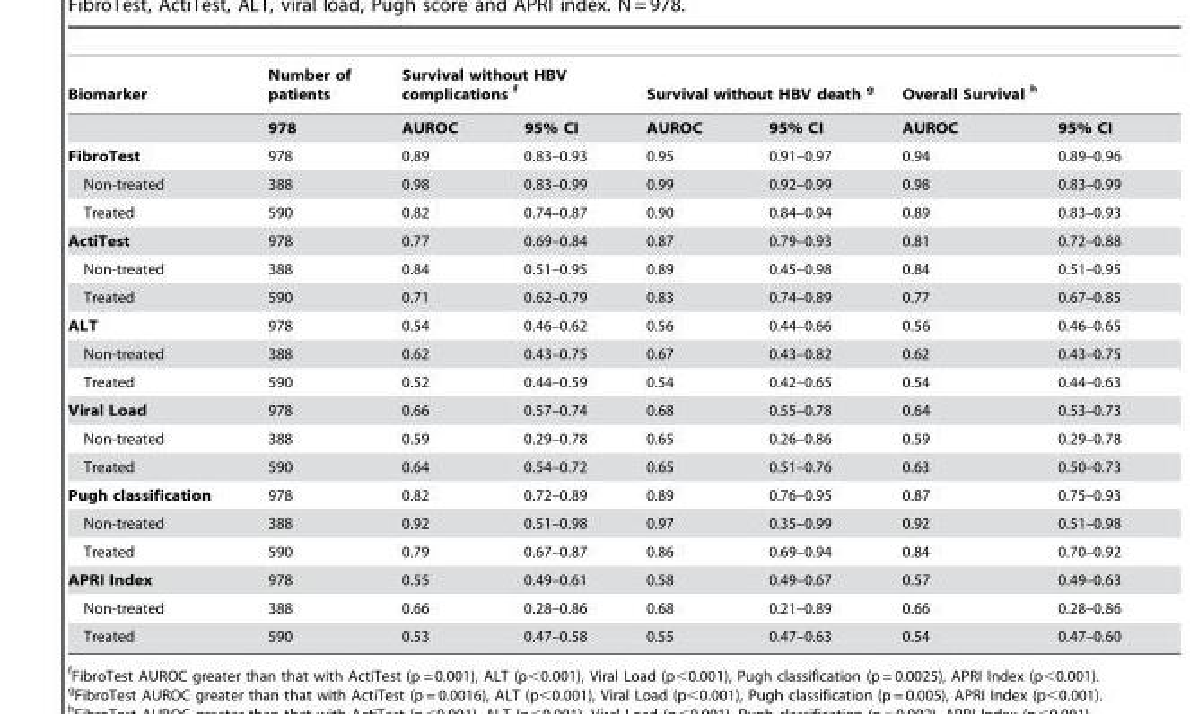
<table><thead><tr><td rowspan="2">Biomarker</td><td rowspan="2">Number of patients 978</td><td colspan="2">Survival without HBV complications f</td><td colspan="2">Survival without HBV death g</td><td colspan="2">Overall Survival h</td></tr><tr><td>AUROC</td><td>95% CI</td><td>AUROC</td><td>95% CI</td><td>AUROC</td><td>95% CI</td></tr></thead><tbody><tr><td>FibroTest</td><td>978</td><td>0.89</td><td>0.83–0.93</td><td>0.95</td><td>0.91–0.97</td><td>0.94</td><td>0.89–0.96</td></tr><tr><td>Non-treated</td><td>388</td><td>0.98</td><td>0.83–0.99</td><td>0.99</td><td>0.92–0.99</td><td>0.98</td><td>0.83–0.99</td></tr><tr><td>Treated</td><td>590</td><td>0.82</td><td>0.74–0.87</td><td>0.90</td><td>0.84–0.94</td><td>0.89</td><td>0.83–0.93</td></tr><tr><td>ActiTest</td><td>978</td><td>0.77</td><td>0.69–0.84</td><td>0.87</td><td>0.79–0.93</td><td>0.81</td><td>0.72–0.88</td></tr><tr><td>Non-treated</td><td>388</td><td>0.84</td><td>0.51–0.95</td><td>0.89</td><td>0.45–0.98</td><td>0.84</td><td>0.51–0.95</td></tr><tr><td>Treated</td><td>590</td><td>0.71</td><td>0.62–0.79</td><td>0.83</td><td>0.74–0.89</td><td>0.77</td><td>0.67–0.85</td></tr><tr><td>ALT</td><td>978</td><td>0.54</td><td>0.46–0.62</td><td>0.56</td><td>0.44–0.66</td><td>0.56</td><td>0.46–0.65</td></tr><tr><td>Non-treated</td><td>388</td><td>0.62</td><td>0.43–0.75</td><td>0.67</td><td>0.43–0.82</td><td>0.62</td><td>0.43–0.75</td></tr><tr><td>Treated</td><td>590</td><td>0.52</td><td>0.44–0.59</td><td>0.54</td><td>0.42–0.65</td><td>0.54</td><td>0.44–0.63</td></tr><tr><td>Viral Load</td><td>978</td><td>0.66</td><td>0.57–0.74</td><td>0.68</td><td>0.55–0.78</td><td>0.64</td><td>0.53–0.73</td></tr><tr><td>Non-treated</td><td>388</td><td>0.59</td><td>0.29–0.78</td><td>0.65</td><td>0.26–0.86</td><td>0.59</td><td>0.29–0.78</td></tr><tr><td>Treated</td><td>590</td><td>0.64</td><td>0.54–0.72</td><td>0.65</td><td>0.51–0.76</td><td>0.63</td><td>0.50–0.73</td></tr><tr><td>Pugh classification</td><td>978</td><td>0.82</td><td>0.72–0.89</td><td>0.89</td><td>0.76–0.95</td><td>0.87</td><td>0.75–0.93</td></tr><tr><td>Non-treated</td><td>388</td><td>0.92</td><td>0.51–0.98</td><td>0.97</td><td>0.35–0.99</td><td>0.92</td><td>0.51–0.98</td></tr><tr><td>Treated</td><td>590</td><td>0.79</td><td>0.67–0.87</td><td>0.86</td><td>0.69–0.94</td><td>0.84</td><td>0.70–0.92</td></tr><tr><td>APRI Index</td><td>978</td><td>0.55</td><td>0.49–0.61</td><td>0.58</td><td>0.49–0.67</td><td>0.57</td><td>0.49–0.63</td></tr><tr><td>Non-treated</td><td>388</td><td>0.66</td><td>0.28–0.86</td><td>0.68</td><td>0.21–0.89</td><td>0.66</td><td>0.28–0.86</td></tr><tr><td>Treated</td><td>590</td><td>0.53</td><td>0.47–0.58</td><td>0.55</td><td>0.47–0.63</td><td>0.54</td><td>0.47–0.60</td></tr></tbody></table>